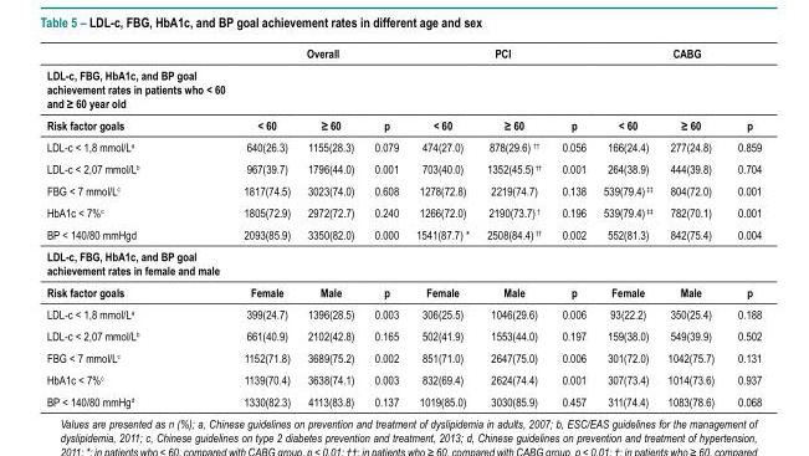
<table><thead><tr><td></td><td colspan="3">Overall</td><td colspan="3">PCI</td><td colspan="3">CABG</td></tr><tr><td colspan="10">LDL-c, FBG, HbA1c, and BP goal achievement rates in patients who &lt; 60 and ≥ 60 year old</td></tr><tr><td>Risk factor goals</td><td>&lt; 60</td><td>≥ 60</td><td>p</td><td>&lt; 60</td><td>≥ 60</td><td>p</td><td>&lt; 60</td><td>≥ 60</td><td>p</td></tr></thead><tbody><tr><td>LDL-c &lt; 1,8 mmol/L<sup>a</sup></td><td>640(26.3)</td><td>1155(28.3)</td><td>0.079</td><td>474(27.0)</td><td>878(29.6) ††</td><td>0.056</td><td>166(24.4)</td><td>277(24.8)</td><td>0.859</td></tr><tr><td>LDL-c &lt; 2,07 mmol/L<sup>b</sup></td><td>967(39.7)</td><td>1796(44.0)</td><td>0.001</td><td>703(40.0)</td><td>1352(45.5) ††</td><td>0.001</td><td>264(38.9)</td><td>444(39.8)</td><td>0.704</td></tr><tr><td>FBG &lt; 7 mmol/L<sup>c</sup></td><td>1817(74.5)</td><td>3023(74.0)</td><td>0.608</td><td>1278(72.8)</td><td>2219(74.7)</td><td>0.138</td><td>539(79.4) ‡‡</td><td>804(72.0)</td><td>0.001</td></tr><tr><td>HbA1c &lt; 7%c</td><td>1805(72.9)</td><td>2972(72.7)</td><td>0.240</td><td>1266(72.0)</td><td>2190(73.7) †</td><td>0.196</td><td>539(79.4) ‡‡</td><td>782(70.1)</td><td>0.001</td></tr><tr><td>BP &lt; 140/80 mmHg<sup>d</sup></td><td>2093(85.9)</td><td>3350(82.0)</td><td>0.000</td><td>1541(87.7) *</td><td>2508(84.4) ††</td><td>0.002</td><td>552(81.3)</td><td>842(75.4)</td><td>0.004</td></tr><tr><td colspan="10">LDL-c, FBG, HbA1c, and BP goal achievement rates in female and male</td></tr><tr><td>Risk factor goals</td><td>Female</td><td>Male</td><td>p</td><td>Female</td><td>Male</td><td>p</td><td>Female</td><td>Male</td><td>p</td></tr><tr><td>LDL-c &lt; 1,8 mmol/L<sup>a</sup></td><td>399(24.7)</td><td>1396(28.5)</td><td>0.003</td><td>306(25.5)</td><td>1046(29.6)</td><td>0.006</td><td>93(22.2)</td><td>350(25.4)</td><td>0.188</td></tr><tr><td>LDL-c &lt; 2,07 mmol/L<sup>b</sup></td><td>661(40.9)</td><td>2102(42.8)</td><td>0.165</td><td>502(41.9)</td><td>1553(44.0)</td><td>0.197</td><td>159(38.0)</td><td>549(39.9)</td><td>0.502</td></tr><tr><td>FBG &lt; 7 mmol/L<sup>c</sup></td><td>1152(71.8)</td><td>3689(75.2)</td><td>0.002</td><td>851(71.0)</td><td>2647(75.0)</td><td>0.006</td><td>301(72.0)</td><td>1042(75.7)</td><td>0.131</td></tr><tr><td>HbA1c &lt; 7%c</td><td>1139(70.4)</td><td>3638(74.1)</td><td>0.003</td><td>832(69.4)</td><td>2624(74.4)</td><td>0.001</td><td>307(73.4)</td><td>1014(73.6)</td><td>0.937</td></tr><tr><td>BP &lt; 140/80 mmHg<sup>d</sup></td><td>1330(82.3)</td><td>4113(83.8)</td><td>0.137</td><td>1019(85.0)</td><td>3030(85.9)</td><td>0.457</td><td>311(74.4)</td><td>1083(78.6)</td><td>0.068</td></tr></tbody></table>